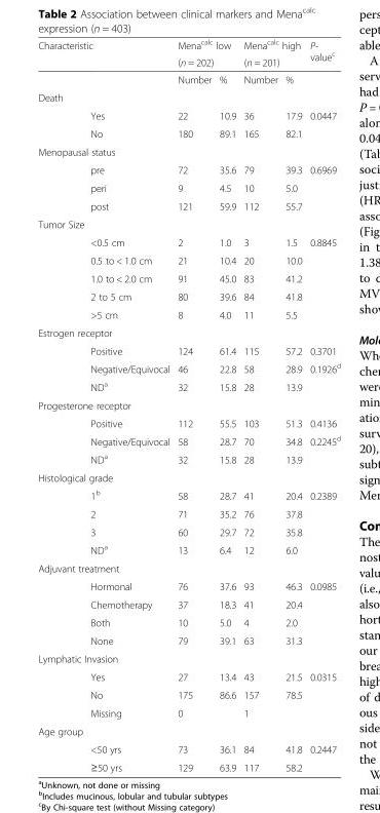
<table><thead><tr><td colspan="2">Characteristic</td><td rowspan="2" colspan="2">Mena<sup>calc</sup> low (n = 202)</td><td rowspan="2" colspan="2">Mena<sup>calc</sup> high (n = 201)</td><td rowspan="3">P- value<sup>c</sup></td></tr><tr><td rowspan="2"></td><td rowspan="2"></td></tr><tr><td>Number</td><td>%</td><td>Number</td><td>%</td></tr></thead><tbody><tr><td colspan="7">Death</td></tr><tr><td></td><td>Yes</td><td>22</td><td>10.9</td><td>36</td><td>17.9</td><td>0.0447</td></tr><tr><td></td><td>No</td><td>180</td><td>89.1</td><td>165</td><td>82.1</td><td></td></tr><tr><td colspan="7">Menopausal status</td></tr><tr><td></td><td>pre</td><td>72</td><td>35.6</td><td>79</td><td>39.3</td><td>0.6969</td></tr><tr><td></td><td>peri</td><td>9</td><td>4.5</td><td>10</td><td>5.0</td><td></td></tr><tr><td></td><td>post</td><td>121</td><td>59.9</td><td>112</td><td>55.7</td><td></td></tr><tr><td colspan="7">Tumor Size</td></tr><tr><td></td><td>&lt;0.5 cm</td><td>2</td><td>1.0</td><td>3</td><td>1.5</td><td>0.8845</td></tr><tr><td></td><td>0.5 to &lt; 1.0 cm</td><td>21</td><td>10.4</td><td>20</td><td>10.0</td><td></td></tr><tr><td></td><td>1.0 to &lt; 2.0 cm</td><td>91</td><td>45.0</td><td>83</td><td>41.2</td><td></td></tr><tr><td></td><td>2 to 5 cm</td><td>80</td><td>39.6</td><td>84</td><td>41.8</td><td></td></tr><tr><td></td><td>&gt;5 cm</td><td>8</td><td>4.0</td><td>11</td><td>5.5</td><td></td></tr><tr><td colspan="7">Estrogen receptor</td></tr><tr><td></td><td>Positive</td><td>124</td><td>61.4</td><td>115</td><td>57.2</td><td>0.3701</td></tr><tr><td></td><td>Negative/Equivocal</td><td>46</td><td>22.8</td><td>58</td><td>28.9</td><td>0.1926<sup>d</sup></td></tr><tr><td></td><td>ND<sup>a</sup></td><td>32</td><td>15.8</td><td>28</td><td>13.9</td><td></td></tr><tr><td colspan="7">Progesterone receptor</td></tr><tr><td></td><td>Positive</td><td>112</td><td>55.5</td><td>103</td><td>51.3</td><td>0.4136</td></tr><tr><td></td><td>Negative/Equivocal</td><td>58</td><td>28.7</td><td>70</td><td>34.8</td><td>0.2245<sup>d</sup></td></tr><tr><td></td><td>ND<sup>a</sup></td><td>32</td><td>15.8</td><td>28</td><td>13.9</td><td></td></tr><tr><td colspan="7">Histological grade</td></tr><tr><td></td><td>1<sup>b</sup></td><td>58</td><td>28.7</td><td>41</td><td>20.4</td><td>0.2389</td></tr><tr><td></td><td>2</td><td>71</td><td>35.2</td><td>76</td><td>37.8</td><td></td></tr><tr><td></td><td>3</td><td>60</td><td>29.7</td><td>72</td><td>35.8</td><td></td></tr><tr><td></td><td>ND<sup>a</sup></td><td>13</td><td>6.4</td><td>12</td><td>6.0</td><td></td></tr><tr><td colspan="7">Adjuvant treatment</td></tr><tr><td></td><td>Hormonal</td><td>76</td><td>37.6</td><td>93</td><td>46.3</td><td>0.0985</td></tr><tr><td></td><td>Chemotherapy</td><td>37</td><td>18.3</td><td>41</td><td>20.4</td><td></td></tr><tr><td></td><td>Both</td><td>10</td><td>5.0</td><td>4</td><td>2.0</td><td></td></tr><tr><td></td><td>None</td><td>79</td><td>39.1</td><td>63</td><td>31.3</td><td></td></tr><tr><td colspan="7">Lymphatic Invasion</td></tr><tr><td></td><td>Yes</td><td>27</td><td>13.4</td><td>43</td><td>21.5</td><td>0.0315</td></tr><tr><td></td><td>No</td><td>175</td><td>86.6</td><td>157</td><td>78.5</td><td></td></tr><tr><td></td><td>Missing</td><td>0</td><td></td><td>1</td><td></td><td></td></tr><tr><td colspan="7">Age group</td></tr><tr><td></td><td>&lt;50 yrs</td><td>73</td><td>36.1</td><td>84</td><td>41.8</td><td>0.2447</td></tr><tr><td></td><td>≥50 yrs</td><td>129</td><td>63.9</td><td>117</td><td>58.2</td><td></td></tr></tbody></table>